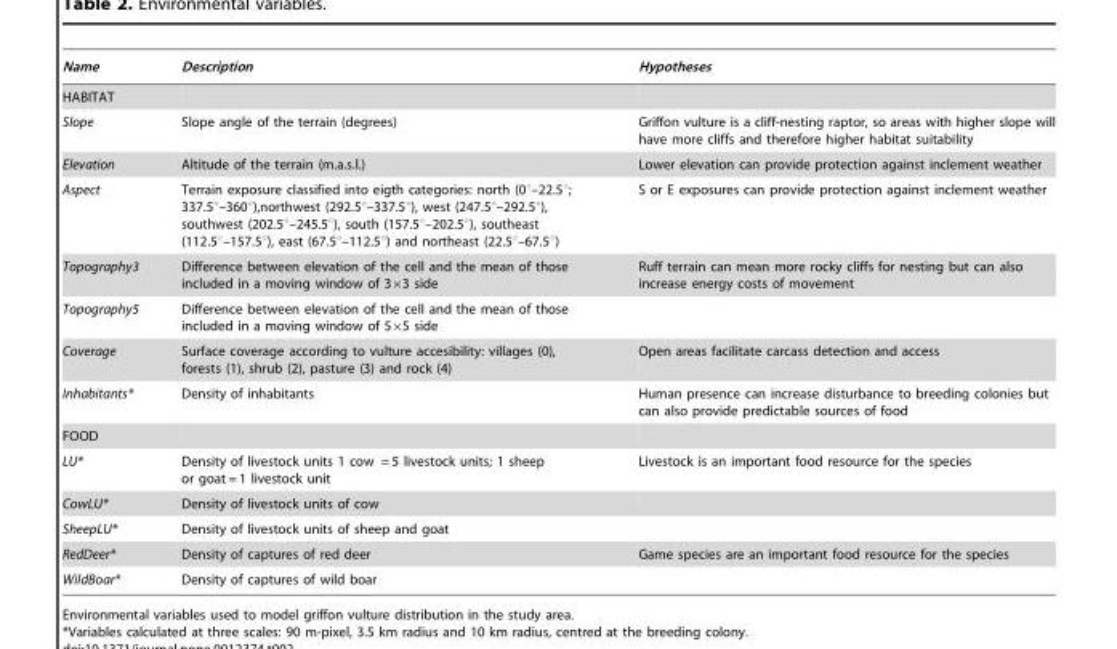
<table><thead><tr><td>Name</td><td>Description</td><td>Hypotheses</td></tr></thead><tbody><tr><td colspan="3">HABITAT</td></tr><tr><td>Slope</td><td>Slope angle of the terrain (degrees)</td><td>Griffon vulture is a cliff-nesting raptor, so areas with higher slope will have more cliffs and therefore higher habitat suitability</td></tr><tr><td>Elevation</td><td>Altitude of the terrain (m.a.s.l.)</td><td>Lower elevation can provide protection against inclement weather</td></tr><tr><td>Aspect</td><td>Terrain exposure classified into eigth categories: north (0°–22.5°; 337.5°–360°),northwest (292.5°–337.5°), west (247.5°–292.5°), southwest (202.5°–245.5°), south (157.5°–202.5°), southeast (112.5°–157.5°), east (67.5°–112.5°) and northeast (22.5°–67.5°)</td><td>S or E exposures can provide protection against inclement weather</td></tr><tr><td>Topography3</td><td>Difference between elevation of the cell and the mean of those included in a moving window of 3×3 side</td><td>Ruff terrain can mean more rocky cliffs for nesting but can also increase energy costs of movement</td></tr><tr><td>Topography5</td><td>Difference between elevation of the cell and the mean of those included in a moving window of 5×5 side</td><td></td></tr><tr><td>Coverage</td><td>Surface coverage according to vulture accesibility: villages (0), forests (1), shrub (2), pasture (3) and rock (4)</td><td>Open areas facilitate carcass detection and access</td></tr><tr><td>Inhabitants*</td><td>Density of inhabitants</td><td>Human presence can increase disturbance to breeding colonies but can also provide predictable sources of food</td></tr><tr><td colspan="3">FOOD</td></tr><tr><td>LU*</td><td>Density of livestock units 1 cow = 5 livestock units; 1 sheep or goat = 1 livestock unit</td><td>Livestock is an important food resource for the species</td></tr><tr><td>CowLU*</td><td>Density of livestock units of cow</td><td></td></tr><tr><td>SheepLU*</td><td>Density of livestock units of sheep and goat</td><td></td></tr><tr><td>RedDeer*</td><td>Density of captures of red deer</td><td>Game species are an important food resource for the species</td></tr><tr><td>WildBoar*</td><td>Density of captures of wild boar</td><td></td></tr></tbody></table>